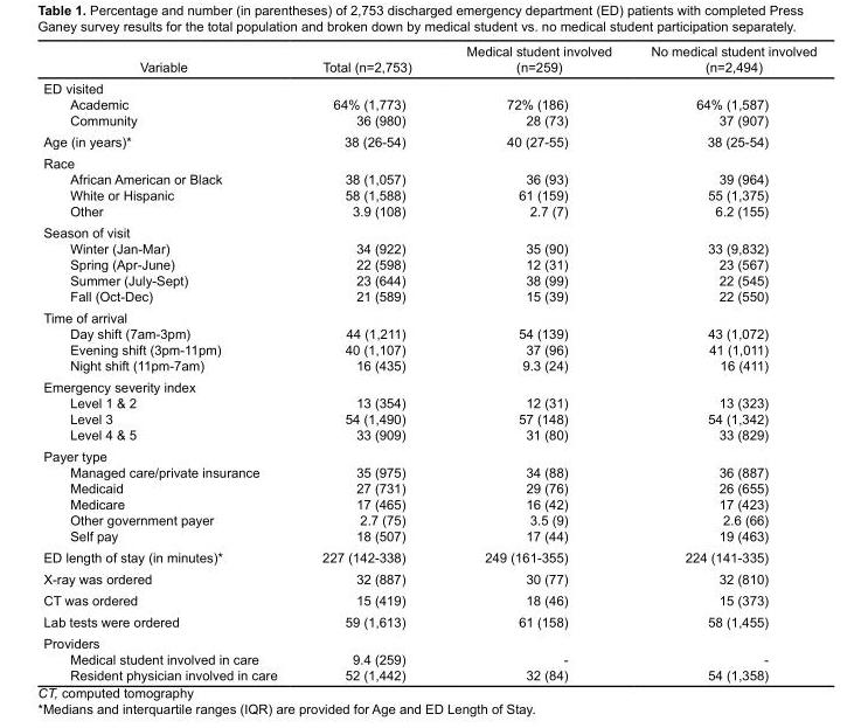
<table><thead><tr><td>Variable</td><td>Total (n=2,753)</td><td>Medical student involved (n=259)</td><td>No medical student involved (n=2,494)</td></tr></thead><tbody><tr><td colspan="4">ED visited</td></tr><tr><td>Academic</td><td>64% (1,773)</td><td>72% (186)</td><td>64% (1,587)</td></tr><tr><td>Community</td><td>36 (980)</td><td>28 (73)</td><td>37 (907)</td></tr><tr><td>Age (in years)*</td><td>38 (26-54)</td><td>40 (27-55)</td><td>38 (25-54)</td></tr><tr><td colspan="4">Race</td></tr><tr><td>African American or Black</td><td>38 (1,057)</td><td>36 (93)</td><td>39 (964)</td></tr><tr><td>White or Hispanic</td><td>58 (1,588)</td><td>61 (159)</td><td>55 (1,375)</td></tr><tr><td>Other</td><td>3.9 (108)</td><td>2.7 (7)</td><td>6.2 (155)</td></tr><tr><td colspan="4">Season of visit</td></tr><tr><td>Winter (Jan-Mar)</td><td>34 (922)</td><td>35 (90)</td><td>33 (9,832)</td></tr><tr><td>Spring (Apr-June)</td><td>22 (598)</td><td>12 (31)</td><td>23 (567)</td></tr><tr><td>Summer (July-Sept)</td><td>23 (644)</td><td>38 (99)</td><td>22 (545)</td></tr><tr><td>Fall (Oct-Dec)</td><td>21 (589)</td><td>15 (39)</td><td>22 (550)</td></tr><tr><td colspan="4">Time of arrival</td></tr><tr><td>Day shift (7am-3pm)</td><td>44 (1,211)</td><td>54 (139)</td><td>43 (1,072)</td></tr><tr><td>Evening shift (3pm-11pm)</td><td>40 (1,107)</td><td>37 (96)</td><td>41 (1,011)</td></tr><tr><td>Night shift (11pm-7am)</td><td>16 (435)</td><td>9.3 (24)</td><td>16 (411)</td></tr><tr><td colspan="4">Emergency severity index</td></tr><tr><td>Level 1 &amp; 2</td><td>13 (354)</td><td>12 (31)</td><td>13 (323)</td></tr><tr><td>Level 3</td><td>54 (1,490)</td><td>57 (148)</td><td>54 (1,342)</td></tr><tr><td>Level 4 &amp; 5</td><td>33 (909)</td><td>31 (80)</td><td>33 (829)</td></tr><tr><td colspan="4">Payer type</td></tr><tr><td>Managed care/private insurance</td><td>35 (975)</td><td>34 (88)</td><td>36 (887)</td></tr><tr><td>Medicaid</td><td>27 (731)</td><td>29 (76)</td><td>26 (655)</td></tr><tr><td>Medicare</td><td>17 (465)</td><td>16 (42)</td><td>17 (423)</td></tr><tr><td>Other government payer</td><td>2.7 (75)</td><td>3.5 (9)</td><td>2.6 (66)</td></tr><tr><td>Self pay</td><td>18 (507)</td><td>17 (44)</td><td>19 (463)</td></tr><tr><td>ED length of stay (in minutes)*</td><td>227 (142-338)</td><td>249 (161-355)</td><td>224 (141-335)</td></tr><tr><td>X-ray was ordered</td><td>32 (887)</td><td>30 (77)</td><td>32 (810)</td></tr><tr><td>CT was ordered</td><td>15 (419)</td><td>18 (46)</td><td>15 (373)</td></tr><tr><td>Lab tests were ordered</td><td>59 (1,613)</td><td>61 (158)</td><td>58 (1,455)</td></tr><tr><td colspan="4">Providers</td></tr><tr><td>Medical student involved in care</td><td>9.4 (259)</td><td>-</td><td>-</td></tr><tr><td>Resident physician involved in care</td><td>52 (1,442)</td><td>32 (84)</td><td>54 (1,358)</td></tr></tbody></table>